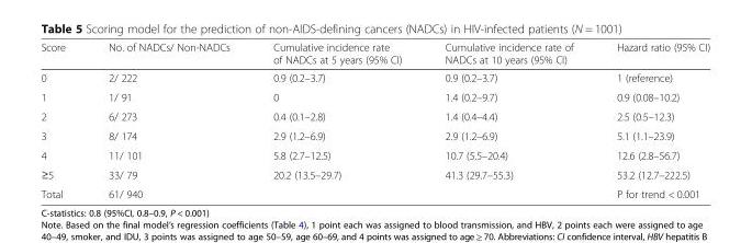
<table><thead><tr><td>Score</td><td>No. of NADCs/ Non-NADCs</td><td>Cumulative incidence rate of NADCs at 5 years (95% CI)</td><td>Cumulative incidence rate of NADCs at 10 years (95% CI)</td><td>Hazard ratio (95% CI)</td></tr></thead><tbody><tr><td>0</td><td>2/ 222</td><td>0.9 (0.2–3.7)</td><td>0.9 (0.2–3.7)</td><td>1 (reference)</td></tr><tr><td>1</td><td>1/ 91</td><td>0</td><td>1.4 (0.2–9.7)</td><td>0.9 (0.08–10.2)</td></tr><tr><td>2</td><td>6/ 273</td><td>0.4 (0.1–2.8)</td><td>1.4 (0.4–4.4)</td><td>2.5 (0.5–12.3)</td></tr><tr><td>3</td><td>8/ 174</td><td>2.9 (1.2–6.9)</td><td>2.9 (1.2–6.9)</td><td>5.1 (1.1–23.9)</td></tr><tr><td>4</td><td>11/ 101</td><td>5.8 (2.7–12.5)</td><td>10.7 (5.5–20.4)</td><td>12.6 (2.8–56.7)</td></tr><tr><td>≥5</td><td>33/ 79</td><td>20.2 (13.5–29.7)</td><td>41.3 (29.7–55.3)</td><td>53.2 (12.7–222.5)</td></tr><tr><td>Total</td><td>61/ 940</td><td></td><td></td><td>P for trend &lt; 0.001</td></tr></tbody></table>